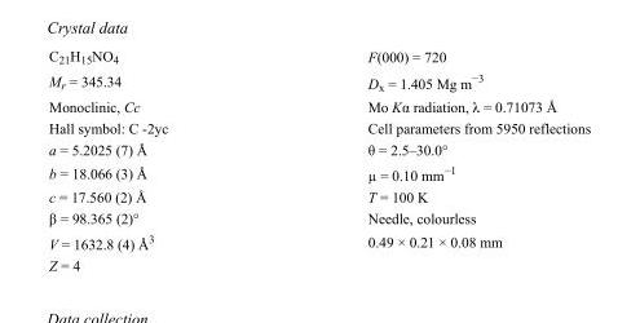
<table><tbody><tr><td>C<sub>21</sub>H<sub>15</sub>NO<sub>4</sub></td><td>F(000) = 720</td></tr><tr><td>M<sub>r</sub> = 345.34</td><td>D<sub>x</sub> = 1.405 Mg m<sup>−3</sup></td></tr><tr><td>Monoclinic, Cc</td><td>Mo Kα radiation, λ = 0.71073 Å</td></tr><tr><td>Hall symbol: C -2yc</td><td>Cell parameters from 5950 reflections</td></tr><tr><td>a = 5.2025 (7) Å</td><td>θ = 2.5–30.0°</td></tr><tr><td>b = 18.066 (3) Å</td><td>µ = 0.10 mm<sup>−1</sup></td></tr><tr><td>c = 17.560 (2) Å</td><td>T = 100 K</td></tr><tr><td>β = 98.365 (2)°</td><td>Needle, colourless</td></tr><tr><td>V = 1632.8 (4) Å<sup>3</sup></td><td>0.49 × 0.21 × 0.08 mm</td></tr><tr><td>Z = 4</td><td></td></tr></tbody></table>